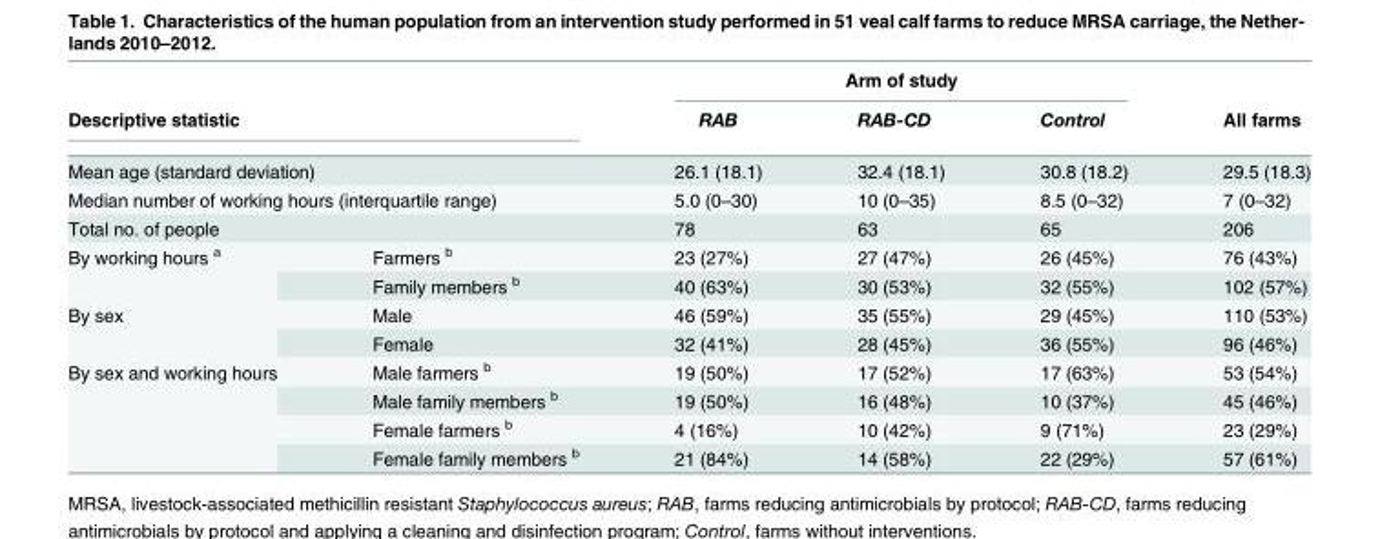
<table><thead><tr><td></td><td></td><td colspan="3">Arm of study</td><td rowspan="2">All farms</td></tr><tr><td colspan="2">Descriptive statistic</td><td>RAB</td><td>RAB-CD</td><td>Control</td></tr></thead><tbody><tr><td colspan="2">Mean age (standard deviation)</td><td>26.1 (18.1)</td><td>32.4 (18.1)</td><td>30.8 (18.2)</td><td>29.5 (18.3)</td></tr><tr><td colspan="2">Median number of working hours (interquartile range)</td><td>5.0 (0–30)</td><td>10 (0–35)</td><td>8.5 (0–32)</td><td>7 (0–32)</td></tr><tr><td colspan="2">Total no. of people</td><td>78</td><td>63</td><td>65</td><td>206</td></tr><tr><td rowspan="2">By working hours <sup>a</sup></td><td>Farmers <sup>b</sup></td><td>23 (27%)</td><td>27 (47%)</td><td>26 (45%)</td><td>76 (43%)</td></tr><tr><td>Family members <sup>b</sup></td><td>40 (63%)</td><td>30 (53%)</td><td>32 (55%)</td><td>102 (57%)</td></tr><tr><td rowspan="2">By sex</td><td>Male</td><td>46 (59%)</td><td>35 (55%)</td><td>29 (45%)</td><td>110 (53%)</td></tr><tr><td>Female</td><td>32 (41%)</td><td>28 (45%)</td><td>36 (55%)</td><td>96 (46%)</td></tr><tr><td rowspan="4">By sex and working hours</td><td>Male farmers <sup>b</sup></td><td>19 (50%)</td><td>17 (52%)</td><td>17 (63%)</td><td>53 (54%)</td></tr><tr><td>Male family members <sup>b</sup></td><td>19 (50%)</td><td>16 (48%)</td><td>10 (37%)</td><td>45 (46%)</td></tr><tr><td>Female farmers <sup>b</sup></td><td>4 (16%)</td><td>10 (42%)</td><td>9 (71%)</td><td>23 (29%)</td></tr><tr><td>Female family members <sup>b</sup></td><td>21 (84%)</td><td>14 (58%)</td><td>22 (29%)</td><td>57 (61%)</td></tr></tbody></table>